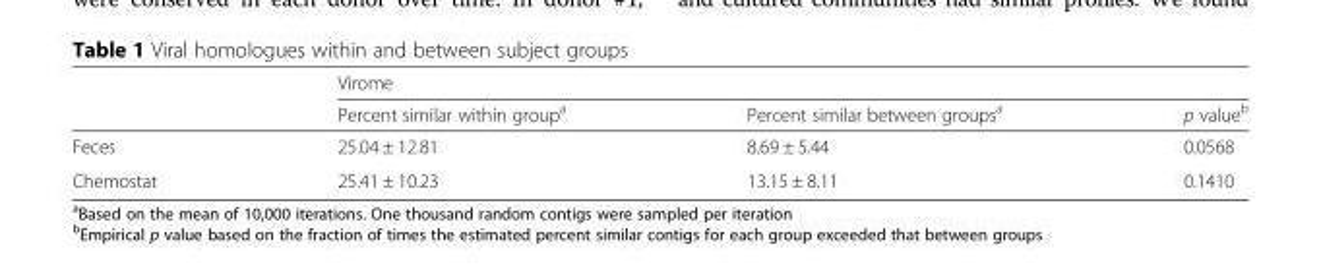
<table><thead><tr><td rowspan="2"></td><td colspan="3">Virome</td></tr><tr><td>Percent similar within group<sup>a</sup></td><td>Percent similar between groups<sup>a</sup></td><td>p value<sup>b</sup></td></tr></thead><tbody><tr><td>Feces</td><td>25.04 ± 12.81</td><td>8.69 ± 5.44</td><td>0.0568</td></tr><tr><td>Chemostat</td><td>25.41 ± 10.23</td><td>13.15 ± 8.11</td><td>0.1410</td></tr></tbody></table>